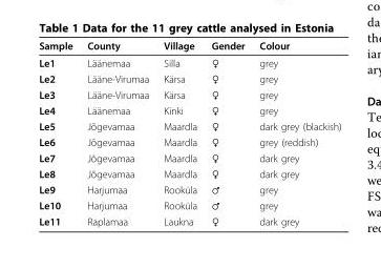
<table><thead><tr><td>Sample</td><td>County</td><td>Village</td><td>Gender</td><td>Colour</td></tr></thead><tbody><tr><td>Le1</td><td>Läänemaa</td><td>Silla</td><td>♀</td><td>grey</td></tr><tr><td>Le2</td><td>Lääne-Virumaa</td><td>Kärsa</td><td>♀</td><td>grey</td></tr><tr><td>Le3</td><td>Lääne-Virumaa</td><td>Kärsa</td><td>♀</td><td>grey</td></tr><tr><td>Le4</td><td>Läänemaa</td><td>Kinki</td><td>♀</td><td>grey</td></tr><tr><td>Le5</td><td>Jõgevamaa</td><td>Maardla</td><td>♀</td><td>dark grey (blackish)</td></tr><tr><td>Le6</td><td>Jõgevamaa</td><td>Maardla</td><td>♀</td><td>grey (reddish)</td></tr><tr><td>Le7</td><td>Jõgevamaa</td><td>Maardla</td><td>♀</td><td>dark grey</td></tr><tr><td>Le8</td><td>Jõgevamaa</td><td>Maardla</td><td>♀</td><td>dark grey</td></tr><tr><td>Le9</td><td>Harjumaa</td><td>Rooküla</td><td>♂</td><td>grey</td></tr><tr><td>Le10</td><td>Harjumaa</td><td>Rooküla</td><td>♂</td><td>grey</td></tr><tr><td>Le11</td><td>Raplamaa</td><td>Laukna</td><td>♀</td><td>dark grey</td></tr></tbody></table>